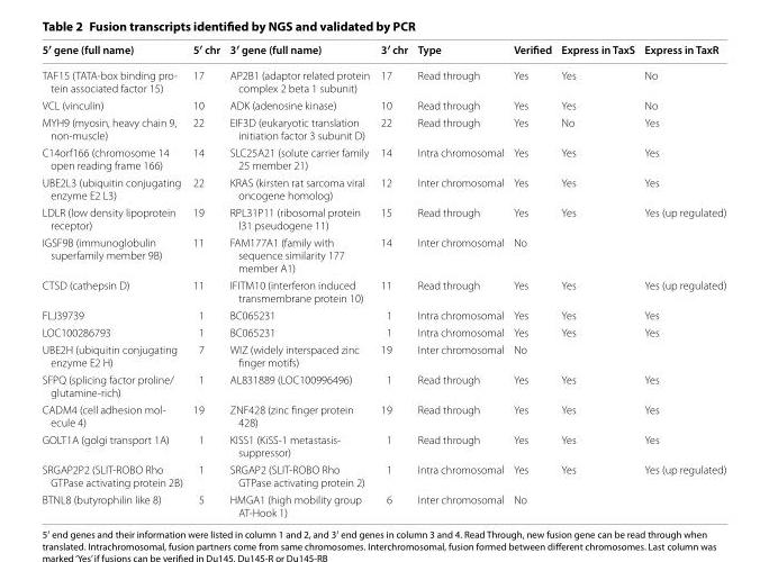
<table><thead><tr><td>5′ gene (full name)</td><td>5′ chr</td><td>3′ gene (full name)</td><td>3′ chr</td><td>Type</td><td>Verified</td><td>Express in TaxS</td><td>Express in TaxR</td></tr></thead><tbody><tr><td>TAF15 (TATA-box binding pro- tein associated factor 15)</td><td>17</td><td>AP2B1 (adaptor related protein complex 2 beta 1 subunit)</td><td>17</td><td>Read through</td><td>Yes</td><td>Yes</td><td>No</td></tr><tr><td>VCL (vinculin)</td><td>10</td><td>ADK (adenosine kinase)</td><td>10</td><td>Read through</td><td>Yes</td><td>Yes</td><td>No</td></tr><tr><td>MYH9 (myosin, heavy chain 9, non-muscle)</td><td>22</td><td>EIF3D (eukaryotic translation initiation factor 3 subunit D)</td><td>22</td><td>Read through</td><td>Yes</td><td>No</td><td>Yes</td></tr><tr><td>C14orf166 (chromosome 14 open reading frame 166)</td><td>14</td><td>SLC25A21 (solute carrier family 25 member 21)</td><td>14</td><td>Intra chromosomal</td><td>Yes</td><td>Yes</td><td>Yes</td></tr><tr><td>UBE2L3 (ubiquitin conjugating enzyme E2 L3)</td><td>22</td><td>KRAS (kirsten rat sarcoma viral oncogene homolog)</td><td>12</td><td>Inter chromosomal</td><td>Yes</td><td>Yes</td><td>Yes</td></tr><tr><td>LDLR (low density lipoprotein receptor)</td><td>19</td><td>RPL31P11 (ribosomal protein l31 pseudogene 11)</td><td>15</td><td>Read through</td><td>Yes</td><td>Yes</td><td>Yes (up regulated)</td></tr><tr><td>IGSF9B (immunoglobulin superfamily member 9B)</td><td>11</td><td>FAM177A1 (family with sequence similarity 177 member A1)</td><td>14</td><td>Inter chromosomal</td><td>No</td><td></td><td></td></tr><tr><td>CTSD (cathepsin D)</td><td>11</td><td>IFITM10 (interferon induced transmembrane protein 10)</td><td>11</td><td>Read through</td><td>Yes</td><td>Yes</td><td>Yes (up regulated)</td></tr><tr><td>FLJ39739</td><td>1</td><td>BC065231</td><td>1</td><td>Intra chromosomal</td><td>Yes</td><td>Yes</td><td>Yes</td></tr><tr><td>LOC100286793</td><td>1</td><td>BC065231</td><td>1</td><td>Intra chromosomal</td><td>Yes</td><td>Yes</td><td>Yes</td></tr><tr><td>UBE2H (ubiquitin conjugating enzyme E2 H)</td><td>7</td><td>WIZ (widely interspaced zinc finger motifs)</td><td>19</td><td>Inter chromosomal</td><td>No</td><td></td><td></td></tr><tr><td>SFPQ (splicing factor proline/ glutamine-rich)</td><td>1</td><td>AL831889 (LOC100996496)</td><td>1</td><td>Read through</td><td>Yes</td><td>Yes</td><td>Yes</td></tr><tr><td>CADM4 (cell adhesion mol- ecule 4)</td><td>19</td><td>ZNF428 (zinc finger protein 428)</td><td>19</td><td>Read through</td><td>Yes</td><td>Yes</td><td>Yes</td></tr><tr><td>GOLT1A (golgi transport 1A)</td><td>1</td><td>KISS1 (KiSS-1 metastasis- suppressor)</td><td>1</td><td>Read through</td><td>Yes</td><td>Yes</td><td>Yes</td></tr><tr><td>SRGAP2P2 (SLIT-ROBO Rho GTPase activating protein 2B)</td><td>1</td><td>SRGAP2 (SLIT-ROBO Rho GTPase activating protein 2)</td><td>1</td><td>Intra chromosomal</td><td>Yes</td><td>Yes</td><td>Yes (up regulated)</td></tr><tr><td>BTNL8 (butyrophilin like 8)</td><td>5</td><td>HMGA1 (high mobility group AT-Hook 1)</td><td>6</td><td>Inter chromosomal</td><td>No</td><td></td><td></td></tr></tbody></table>